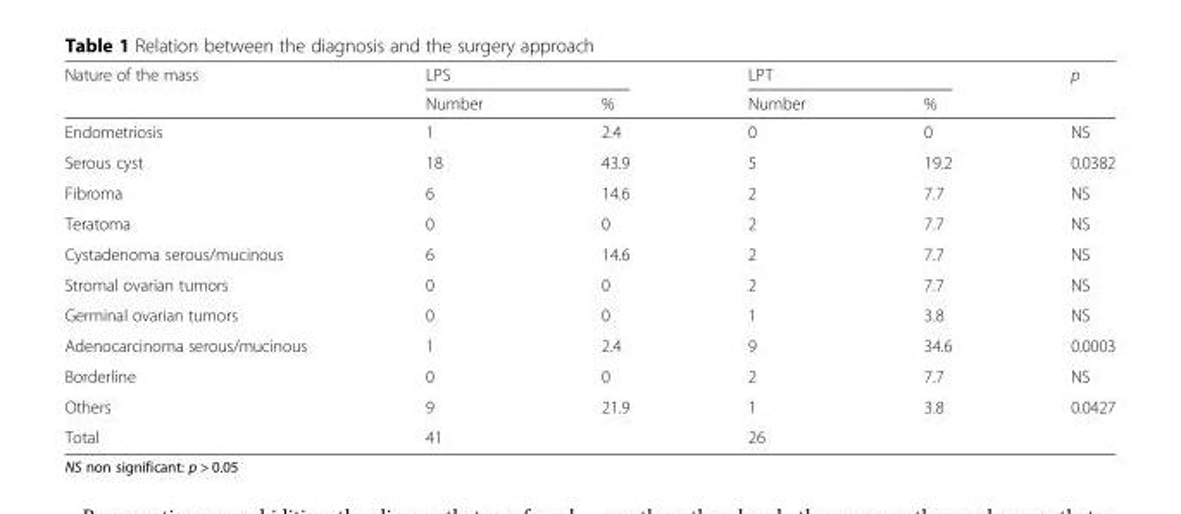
<table><thead><tr><td rowspan="2">Nature of the mass</td><td colspan="2">LPS</td><td colspan="2">LPT</td><td rowspan="2">p</td></tr><tr><td>Number</td><td>%</td><td>Number</td><td>%</td></tr></thead><tbody><tr><td>Endometriosis</td><td>1</td><td>2.4</td><td>0</td><td>0</td><td>NS</td></tr><tr><td>Serous cyst</td><td>18</td><td>43.9</td><td>5</td><td>19.2</td><td>0.0382</td></tr><tr><td>Fibroma</td><td>6</td><td>14.6</td><td>2</td><td>7.7</td><td>NS</td></tr><tr><td>Teratoma</td><td>0</td><td>0</td><td>2</td><td>7.7</td><td>NS</td></tr><tr><td>Cystadenoma serous/mucinous</td><td>6</td><td>14.6</td><td>2</td><td>7.7</td><td>NS</td></tr><tr><td>Stromal ovarian tumors</td><td>0</td><td>0</td><td>2</td><td>7.7</td><td>NS</td></tr><tr><td>Germinal ovarian tumors</td><td>0</td><td>0</td><td>1</td><td>3.8</td><td>NS</td></tr><tr><td>Adenocarcinoma serous/mucinous</td><td>1</td><td>2.4</td><td>9</td><td>34.6</td><td>0.0003</td></tr><tr><td>Borderline</td><td>0</td><td>0</td><td>2</td><td>7.7</td><td>NS</td></tr><tr><td>Others</td><td>9</td><td>21.9</td><td>1</td><td>3.8</td><td>0.0427</td></tr><tr><td>Total</td><td colspan="2">41</td><td colspan="2">26</td><td></td></tr></tbody></table>